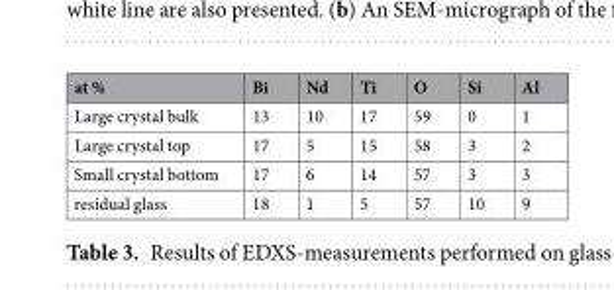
<table><thead><tr><td>at %</td><td>Bi</td><td>Nd</td><td>Ti</td><td>O</td><td>Si</td><td>Al</td></tr></thead><tbody><tr><td>Large crystal bulk</td><td>13</td><td>10</td><td>17</td><td>59</td><td>0</td><td>1</td></tr><tr><td>Large crystal top</td><td>17</td><td>5</td><td>15</td><td>58</td><td>3</td><td>2</td></tr><tr><td>Small crystal bottom</td><td>17</td><td>6</td><td>14</td><td>57</td><td>3</td><td>3</td></tr><tr><td>residual glass</td><td>18</td><td>1</td><td>5</td><td>57</td><td>10</td><td>9</td></tr></tbody></table>